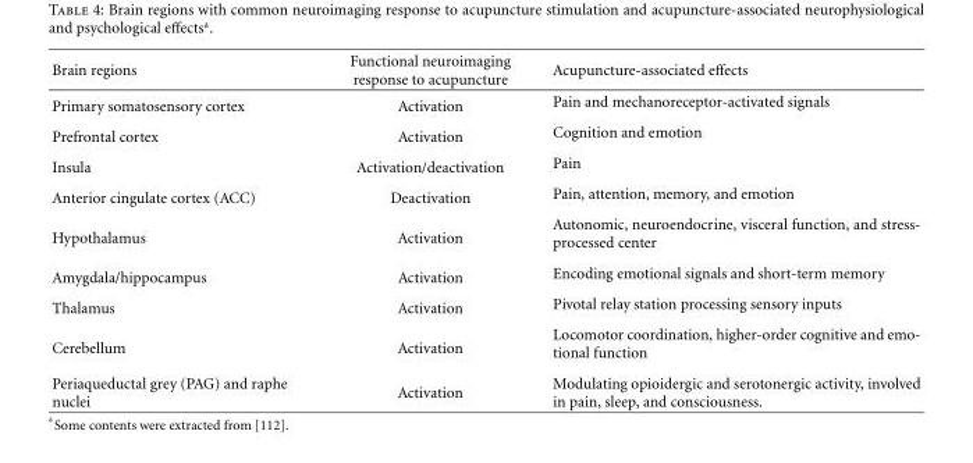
<table><thead><tr><td>Brain regions</td><td>Functional neuroimaging response to acupuncture</td><td>Acupuncture-associated effects</td></tr></thead><tbody><tr><td>Primary somatosensory cortex</td><td>Activation</td><td>Pain and mechanoreceptor-activated signals</td></tr><tr><td>Prefrontal cortex</td><td>Activation</td><td>Cognition and emotion</td></tr><tr><td>Insula</td><td>Activation/deactivation</td><td>Pain</td></tr><tr><td>Anterior cingulate cortex (ACC)</td><td>Deactivation</td><td>Pain, attention, memory, and emotion</td></tr><tr><td>Hypothalamus</td><td>Activation</td><td>Autonomic, neuroendocrine, visceral function, and stress- processed center</td></tr><tr><td>Amygdala/hippocampus</td><td>Activation</td><td>Encoding emotional signals and short-term memory</td></tr><tr><td>Thalamus</td><td>Activation</td><td>Pivotal relay station processing sensory inputs</td></tr><tr><td>Cerebellum</td><td>Activation</td><td>Locomotor coordination, higher-order cognitive and emo- tional function</td></tr><tr><td>Periaqueductal grey (PAG) and raphe nuclei</td><td>Activation</td><td>Modulating opioidergic and serotonergic activity, involved in pain, sleep, and consciousness.</td></tr></tbody></table>